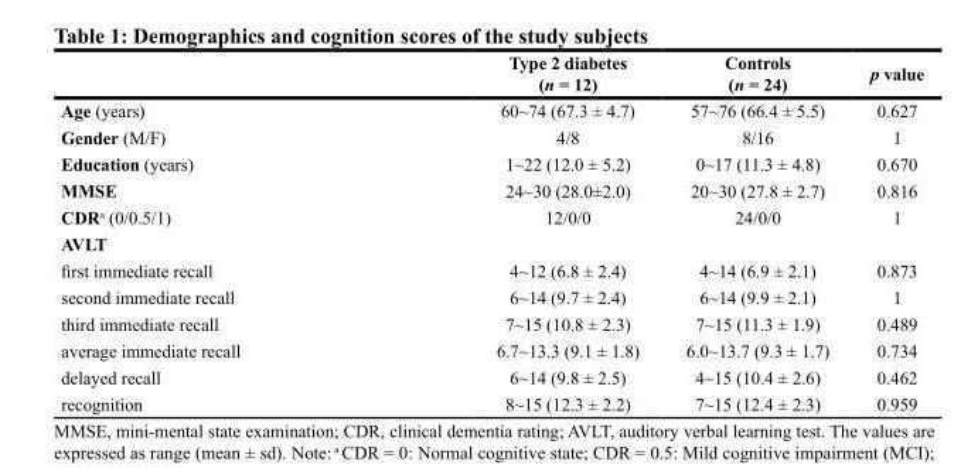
<table><thead><tr><td></td><td>Type 2 diabetes (n = 12)</td><td>Controls (n = 24)</td><td>p value</td></tr></thead><tbody><tr><td>Age (years)</td><td>60~74 (67.3 ± 4.7)</td><td>57~76 (66.4 ± 5.5)</td><td>0.627</td></tr><tr><td>Gender (M/F)</td><td>4/8</td><td>8/16</td><td>1</td></tr><tr><td>Education (years)</td><td>1~22 (12.0 ± 5.2)</td><td>0~17 (11.3 ± 4.8)</td><td>0.670</td></tr><tr><td>MMSE</td><td>24~30 (28.0±2.0)</td><td>20~30 (27.8 ± 2.7)</td><td>0.816</td></tr><tr><td>CDR<sup>a</sup> (0/0.5/1)</td><td>12/0/0</td><td>24/0/0</td><td>1</td></tr><tr><td colspan="4">AVLT</td></tr><tr><td>first immediate recall</td><td>4~12 (6.8 ± 2.4)</td><td>4~14 (6.9 ± 2.1)</td><td>0.873</td></tr><tr><td>second immediate recall</td><td>6~14 (9.7 ± 2.4)</td><td>6~14 (9.9 ± 2.1)</td><td>1</td></tr><tr><td>third immediate recall</td><td>7~15 (10.8 ± 2.3)</td><td>7~15 (11.3 ± 1.9)</td><td>0.489</td></tr><tr><td>average immediate recall</td><td>6.7~13.3 (9.1 ± 1.8)</td><td>6.0~13.7 (9.3 ± 1.7)</td><td>0.734</td></tr><tr><td>delayed recall</td><td>6~14 (9.8 ± 2.5)</td><td>4~15 (10.4 ± 2.6)</td><td>0.462</td></tr><tr><td>recognition</td><td>8~15 (12.3 ± 2.2)</td><td>7~15 (12.4 ± 2.3)</td><td>0.959</td></tr></tbody></table>